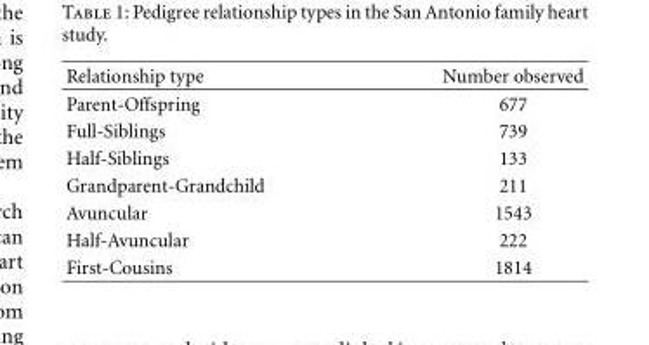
<table><thead><tr><td>Relationship type</td><td>Number observed</td></tr></thead><tbody><tr><td>Parent-Offspring</td><td>677</td></tr><tr><td>Full-Siblings</td><td>739</td></tr><tr><td>Half-Siblings</td><td>133</td></tr><tr><td>Grandparent-Grandchild</td><td>211</td></tr><tr><td>Avuncular</td><td>1543</td></tr><tr><td>Half-Avuncular</td><td>222</td></tr><tr><td>First-Cousins</td><td>1814</td></tr></tbody></table>